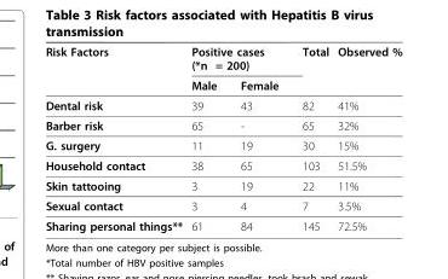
<table><thead><tr><td rowspan="2">Risk Factors</td><td colspan="2">Positive cases (*n = 200)</td><td rowspan="2">Total</td><td rowspan="2">Observed %</td></tr><tr><td>Male</td><td>Female</td></tr></thead><tbody><tr><td>Dental risk</td><td>39</td><td>43</td><td>82</td><td>41%</td></tr><tr><td>Barber risk</td><td>65</td><td>-</td><td>65</td><td>32%</td></tr><tr><td>G. surgery</td><td>11</td><td>19</td><td>30</td><td>15%</td></tr><tr><td>Household contact</td><td>38</td><td>65</td><td>103</td><td>51.5%</td></tr><tr><td>Skin tattooing</td><td>3</td><td>19</td><td>22</td><td>11%</td></tr><tr><td>Sexual contact</td><td>3</td><td>4</td><td>7</td><td>3.5%</td></tr><tr><td>Sharing personal things**</td><td>61</td><td>84</td><td>145</td><td>72.5%</td></tr></tbody></table>